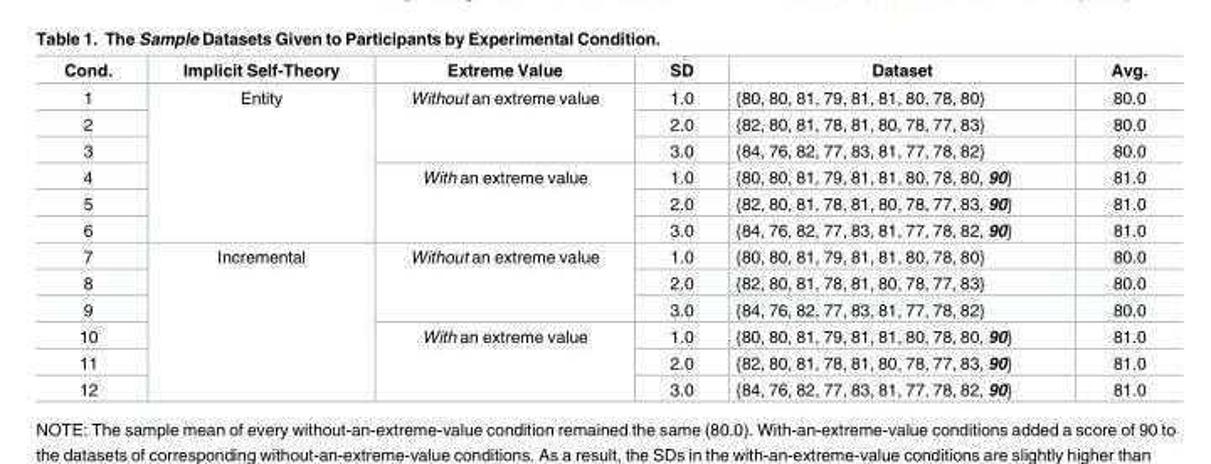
<table><thead><tr><td>Cond.</td><td>Implicit Self-Theory</td><td>Extreme Value</td><td>SD</td><td>Dataset</td><td>Avg.</td></tr></thead><tbody><tr><td>1</td><td rowspan="6">Entity</td><td rowspan="3">Without an extreme value</td><td>1.0</td><td>{80, 80, 81, 79, 81, 81, 80, 78, 80}</td><td>80.0</td></tr><tr><td>2</td><td>2.0</td><td>{82, 80, 81, 78, 81, 80, 78, 77, 83}</td><td>80.0</td></tr><tr><td>3</td><td>3.0</td><td>{84, 76, 82, 77, 83, 81, 77, 78, 82}</td><td>80.0</td></tr><tr><td>4</td><td rowspan="3">With an extreme value</td><td>1.0</td><td>{80, 80, 81, 79, 81, 81, 80, 78, 80, 90}</td><td>81.0</td></tr><tr><td>5</td><td>2.0</td><td>{82, 80, 81, 78, 81, 80, 78, 77, 83, 90}</td><td>81.0</td></tr><tr><td>6</td><td>3.0</td><td>{84, 76, 82, 77, 83, 81, 77, 78, 82, 90}</td><td>81.0</td></tr><tr><td>7</td><td rowspan="6">Incremental</td><td rowspan="3">Without an extreme value</td><td>1.0</td><td>{80, 80, 81, 79, 81, 81, 80, 78, 80}</td><td>80.0</td></tr><tr><td>8</td><td>2.0</td><td>{82, 80, 81, 78, 81, 80, 78, 77, 83}</td><td>80.0</td></tr><tr><td>9</td><td>3.0</td><td>{84, 76, 82, 77, 83, 81, 77, 78, 82}</td><td>80.0</td></tr><tr><td>10</td><td rowspan="3">With an extreme value</td><td>1.0</td><td>{80, 80, 81, 79, 81, 81, 80, 78, 80, 90}</td><td>81.0</td></tr><tr><td>11</td><td>2.0</td><td>{82, 80, 81, 78, 81, 80, 78, 77, 83, 90}</td><td>81.0</td></tr><tr><td>12</td><td>3.0</td><td>{84, 76, 82, 77, 83, 81, 77, 78, 82, 90}</td><td>81.0</td></tr></tbody></table>